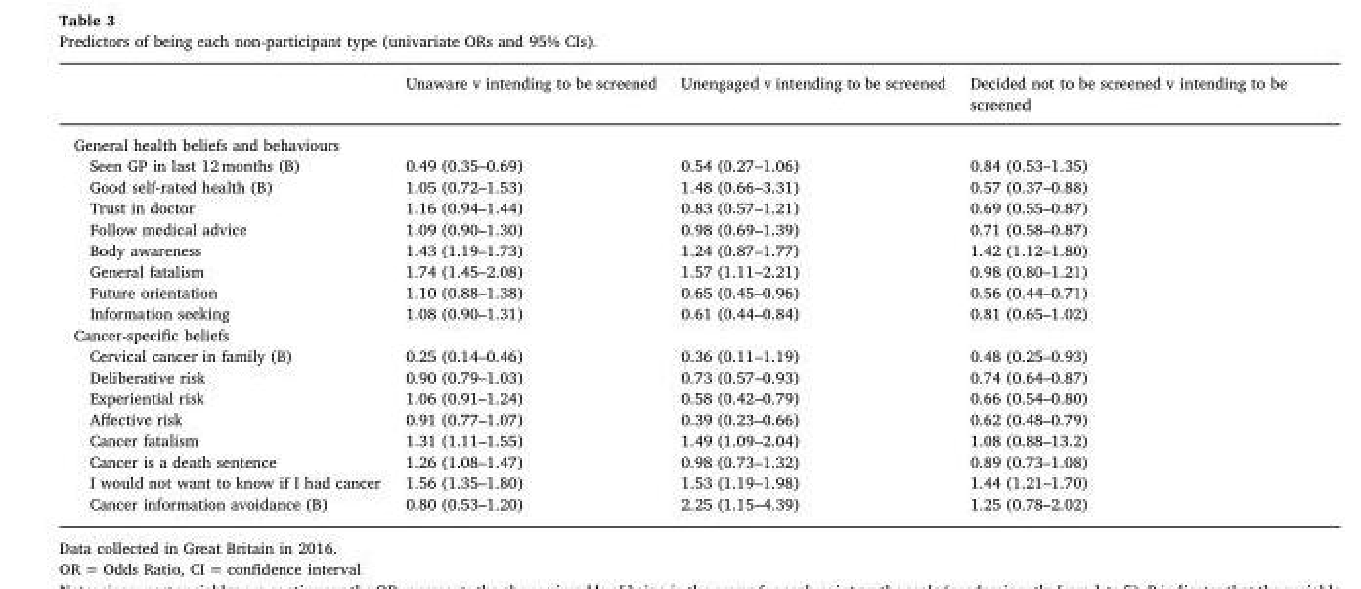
<table><thead><tr><td></td><td>Unaware v intending to be screened</td><td>Unengaged v intending to be screened</td><td>Decided not to be screened v intending to be screened</td></tr></thead><tbody><tr><td colspan="4">General health beliefs and behaviours</td></tr><tr><td>Seen GP in last 12 months (B)</td><td>0.49 (0.35–0.69)</td><td>0.54 (0.27–1.06)</td><td>0.84 (0.53–1.35)</td></tr><tr><td>Good self-rated health (B)</td><td>1.05 (0.72–1.53)</td><td>1.48 (0.66–3.31)</td><td>0.57 (0.37–0.88)</td></tr><tr><td>Trust in doctor</td><td>1.16 (0.94–1.44)</td><td>0.83 (0.57–1.21)</td><td>0.69 (0.55–0.87)</td></tr><tr><td>Follow medical advice</td><td>1.09 (0.90–1.30)</td><td>0.98 (0.69–1.39)</td><td>0.71 (0.58–0.87)</td></tr><tr><td>Body awareness</td><td>1.43 (1.19–1.73)</td><td>1.24 (0.87–1.77)</td><td>1.42 (1.12–1.80)</td></tr><tr><td>General fatalism</td><td>1.74 (1.45–2.08)</td><td>1.57 (1.11–2.21)</td><td>0.98 (0.80–1.21)</td></tr><tr><td>Future orientation</td><td>1.10 (0.88–1.38)</td><td>0.65 (0.45–0.96)</td><td>0.56 (0.44–0.71)</td></tr><tr><td>Information seeking</td><td>1.08 (0.90–1.31)</td><td>0.61 (0.44–0.84)</td><td>0.81 (0.65–1.02)</td></tr><tr><td colspan="4">Cancer-specific beliefs</td></tr><tr><td>Cervical cancer in family (B)</td><td>0.25 (0.14–0.46)</td><td>0.36 (0.11–1.19)</td><td>0.48 (0.25–0.93)</td></tr><tr><td>Deliberative risk</td><td>0.90 (0.79–1.03)</td><td>0.73 (0.57–0.93)</td><td>0.74 (0.64–0.87)</td></tr><tr><td>Experiential risk</td><td>1.06 (0.91–1.24)</td><td>0.58 (0.42–0.79)</td><td>0.66 (0.54–0.80)</td></tr><tr><td>Affective risk</td><td>0.91 (0.77–1.07)</td><td>0.39 (0.23–0.66)</td><td>0.62 (0.48–0.79)</td></tr><tr><td>Cancer fatalism</td><td>1.31 (1.11–1.55)</td><td>1.49 (1.09–2.04)</td><td>1.08 (0.88–13.2)</td></tr><tr><td>Cancer is a death sentence</td><td>1.26 (1.08–1.47)</td><td>0.98 (0.73–1.32)</td><td>0.89 (0.73–1.08)</td></tr><tr><td>I would not want to know if I had cancer</td><td>1.56 (1.35–1.80)</td><td>1.53 (1.19–1.98)</td><td>1.44 (1.21–1.70)</td></tr><tr><td>Cancer information avoidance (B)</td><td>0.80 (0.53–1.20)</td><td>2.25 (1.15–4.39)</td><td>1.25 (0.78–2.02)</td></tr></tbody></table>